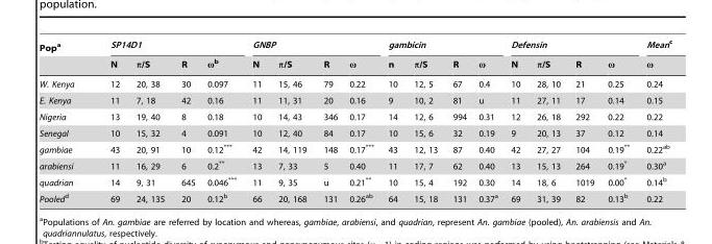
<table><thead><tr><td rowspan="2">Pop<sup>a</sup></td><td colspan="4">SP14D1</td><td colspan="4">GNBP</td><td colspan="4">gambicin</td><td colspan="4">Defensin</td><td rowspan="2">Meanc ω</td></tr><tr><td>N</td><td>π/S</td><td>R</td><td>ω<sup>b</sup></td><td>N</td><td>π/S</td><td>R</td><td>ω</td><td>n</td><td>π/S</td><td>R</td><td>ω</td><td>N</td><td>π/S</td><td>R</td><td>ω</td></tr></thead><tbody><tr><td>W. Kenya</td><td>12</td><td>20, 38</td><td>30</td><td>0.097</td><td>11</td><td>15, 46</td><td>79</td><td>0.22</td><td>10</td><td>12, 5</td><td>67</td><td>0.4</td><td>10</td><td>28, 10</td><td>21</td><td>0.25</td><td>0.24</td></tr><tr><td>E. Kenya</td><td>11</td><td>7, 18</td><td>42</td><td>0.16</td><td>11</td><td>11, 31</td><td>20</td><td>0.16</td><td>9</td><td>10, 2</td><td>81</td><td>u</td><td>11</td><td>27, 11</td><td>17</td><td>0.14</td><td>0.15</td></tr><tr><td>Nigeria</td><td>13</td><td>19, 40</td><td>8</td><td>0.18</td><td>10</td><td>14, 43</td><td>346</td><td>0.17</td><td>14</td><td>12, 6</td><td>994</td><td>0.31</td><td>12</td><td>26, 18</td><td>292</td><td>0.22</td><td>0.22</td></tr><tr><td>Senegal</td><td>10</td><td>15, 32</td><td>4</td><td>0.091</td><td>10</td><td>12, 40</td><td>84</td><td>0.17</td><td>10</td><td>15, 6</td><td>32</td><td>0.19</td><td>9</td><td>20, 13</td><td>37</td><td>0.12</td><td>0.14</td></tr><tr><td>gambiae</td><td>43</td><td>20, 91</td><td>10</td><td>0.12***</td><td>42</td><td>14, 119</td><td>148</td><td>0.17***</td><td>43</td><td>12, 13</td><td>87</td><td>0.40</td><td>42</td><td>27, 27</td><td>104</td><td>0.19**</td><td>0.22<sup>ab</sup></td></tr><tr><td>arabiensi</td><td>11</td><td>16, 29</td><td>6</td><td>0.2**</td><td>13</td><td>7, 33</td><td>5</td><td>0.40</td><td>11</td><td>17, 7</td><td>62</td><td>0.40</td><td>13</td><td>15, 13</td><td>264</td><td>0.19*</td><td>0.30<sup>a</sup></td></tr><tr><td>quadrian</td><td>14</td><td>9, 31</td><td>645</td><td>0.046***</td><td>11</td><td>9, 35</td><td>u</td><td>0.21**</td><td>10</td><td>15, 4</td><td>192</td><td>0.30</td><td>14</td><td>18, 6</td><td>1019</td><td>0.00*</td><td>0.14<sup>b</sup></td></tr><tr><td>Pooledd</td><td>69</td><td>24, 135</td><td>20</td><td>0.12<sup>b</sup></td><td>66</td><td>20, 168</td><td>131</td><td>0.26<sup>ab</sup></td><td>64</td><td>15, 18</td><td>131</td><td>0.37<sup>a</sup></td><td>69</td><td>31, 39</td><td>82</td><td>0.13<sup>b</sup></td><td>0.22</td></tr></tbody></table>